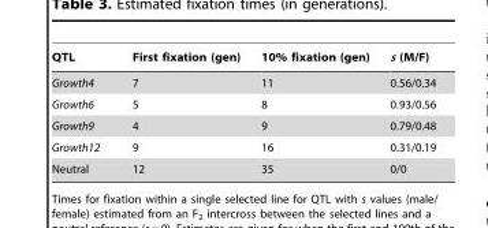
<table><thead><tr><td>QTL</td><td>First fixation (gen)</td><td>10% fixation (gen)</td><td>s (M/F)</td></tr></thead><tbody><tr><td>Growth4</td><td>7</td><td>11</td><td>0.56/0.34</td></tr><tr><td>Growth6</td><td>5</td><td>8</td><td>0.93/0.56</td></tr><tr><td>Growth9</td><td>4</td><td>9</td><td>0.79/0.48</td></tr><tr><td>Growth12</td><td>9</td><td>16</td><td>0.31/0.19</td></tr><tr><td>Neutral</td><td>12</td><td>35</td><td>0/0</td></tr></tbody></table>